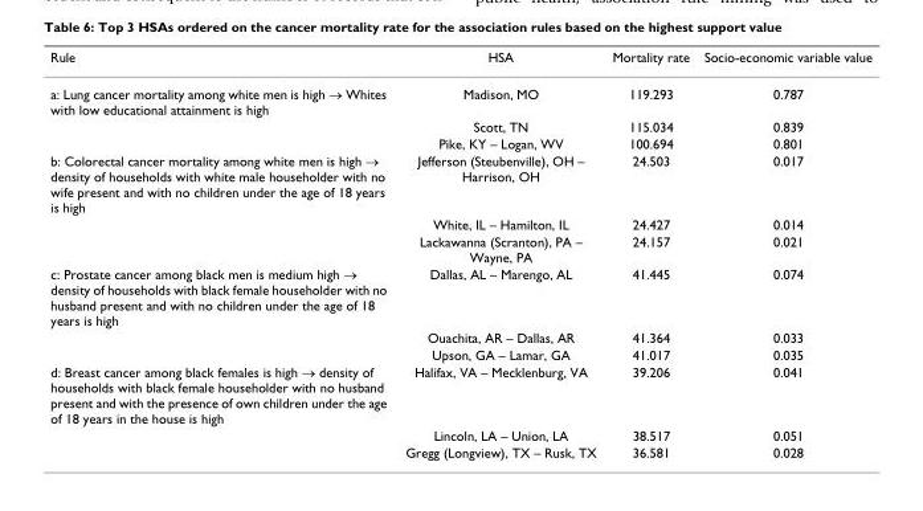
<table><thead><tr><td>Rule</td><td>HSA</td><td>Mortality rate</td><td>Socio-economic variable value</td></tr></thead><tbody><tr><td rowspan="3">a: Lung cancer mortality among white men is high → Whites with low educational attainment is high</td><td>Madison, MO</td><td>119.293</td><td>0.787</td></tr><tr><td>Scott, TN</td><td>115.034</td><td>0.839</td></tr><tr><td>Pike, KY – Logan, WV</td><td>100.694</td><td>0.801</td></tr><tr><td rowspan="3">b: Colorectal cancer mortality among white men is high → density of households with white male householder with no wife present and with no children under the age of 18 years is high</td><td>Jefferson (Steubenville), OH – Harrison, OH</td><td>24.503</td><td>0.017</td></tr><tr><td>White, IL – Hamilton, IL</td><td>24.427</td><td>0.014</td></tr><tr><td>Lackawanna (Scranton), PA – Wayne, PA</td><td>24.157</td><td>0.021</td></tr><tr><td rowspan="3">c: Prostate cancer among black men is medium high → density of households with black female householder with no husband present and with no children under the age of 18 years is high</td><td>Dallas, AL – Marengo, AL</td><td>41.445</td><td>0.074</td></tr><tr><td>Ouachita, AR – Dallas, AR</td><td>41.364</td><td>0.033</td></tr><tr><td>Upson, GA – Lamar, GA</td><td>41.017</td><td>0.035</td></tr><tr><td rowspan="3">d: Breast cancer among black females is high → density of households with black female householder with no husband present and with the presence of own children under the age of 18 years in the house is high</td><td>Halifax, VA – Mecklenburg, VA</td><td>39.206</td><td>0.041</td></tr><tr><td>Lincoln, LA – Union, LA</td><td>38.517</td><td>0.051</td></tr><tr><td>Gregg (Longview), TX – Rusk, TX</td><td>36.581</td><td>0.028</td></tr></tbody></table>